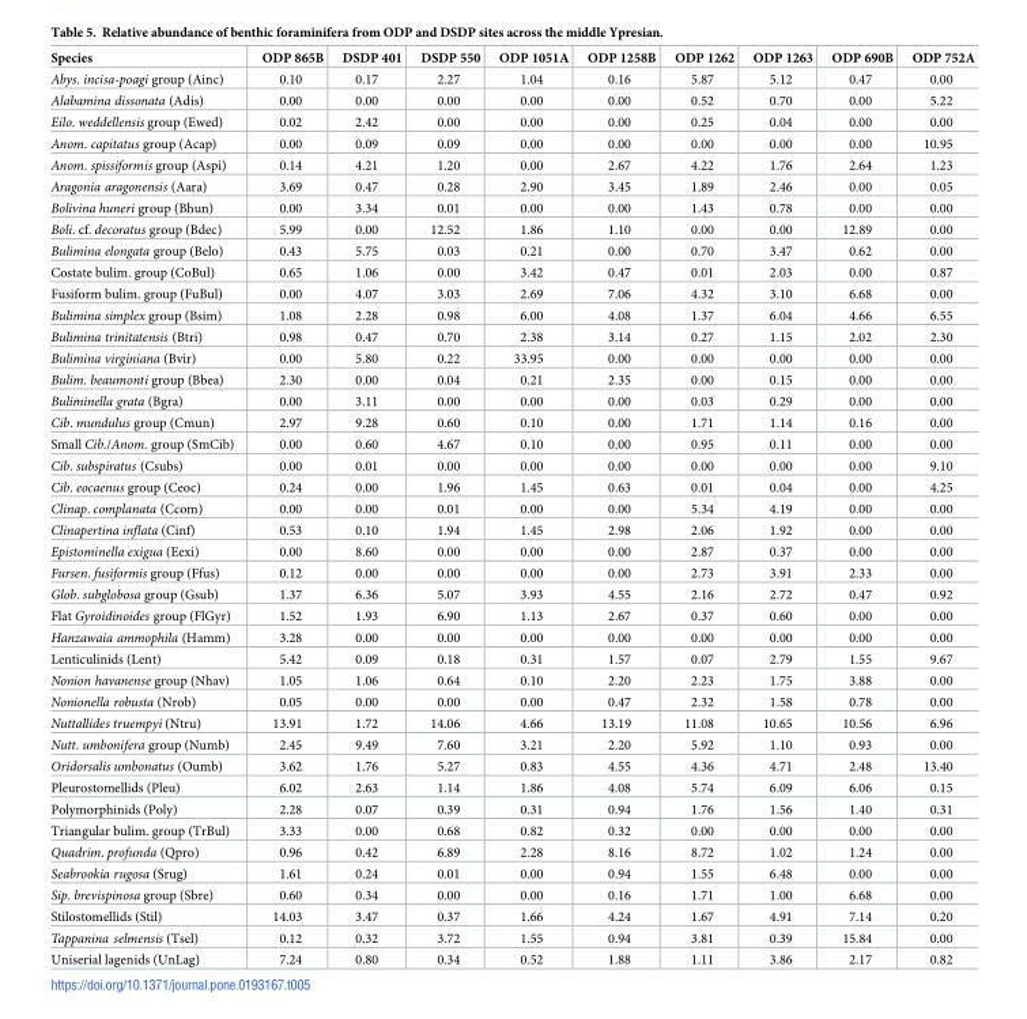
<table><thead><tr><td>Species</td><td>ODP 865B</td><td>DSDP 401</td><td>DSDP 550</td><td>ODP 1051A</td><td>ODP 1258B</td><td>ODP 1262</td><td>ODP 1263</td><td>ODP 690B</td><td>ODP 752A</td></tr></thead><tbody><tr><td>Abys. incisa-poagi group (Ainc)</td><td>0.10</td><td>0.17</td><td>2.27</td><td>1.04</td><td>0.16</td><td>5.87</td><td>5.12</td><td>0.47</td><td>0.00</td></tr><tr><td>Alabamina dissonata (Adis)</td><td>0.00</td><td>0.00</td><td>0.00</td><td>0.00</td><td>0.00</td><td>0.52</td><td>0.70</td><td>0.00</td><td>5.22</td></tr><tr><td>Eilo. weddellensis group (Ewed)</td><td>0.02</td><td>2.42</td><td>0.00</td><td>0.00</td><td>0.00</td><td>0.25</td><td>0.04</td><td>0.00</td><td>0.00</td></tr><tr><td>Anom. capitatus group (Acap)</td><td>0.00</td><td>0.09</td><td>0.09</td><td>0.00</td><td>0.00</td><td>0.00</td><td>0.00</td><td>0.00</td><td>10.95</td></tr><tr><td>Anom. spissiformis group (Aspi)</td><td>0.14</td><td>4.21</td><td>1.20</td><td>0.00</td><td>2.67</td><td>4.22</td><td>1.76</td><td>2.64</td><td>1.23</td></tr><tr><td>Aragonia aragonensis (Aara)</td><td>3.69</td><td>0.47</td><td>0.28</td><td>2.90</td><td>3.45</td><td>1.89</td><td>2.46</td><td>0.00</td><td>0.05</td></tr><tr><td>Bolivina huneri group (Bhun)</td><td>0.00</td><td>3.34</td><td>0.01</td><td>0.00</td><td>0.00</td><td>1.43</td><td>0.78</td><td>0.00</td><td>0.00</td></tr><tr><td>Boli. cf. decoratus group (Bdec)</td><td>5.99</td><td>0.00</td><td>12.52</td><td>1.86</td><td>1.10</td><td>0.00</td><td>0.00</td><td>12.89</td><td>0.00</td></tr><tr><td>Bulimina elongata group (Belo)</td><td>0.43</td><td>5.75</td><td>0.03</td><td>0.21</td><td>0.00</td><td>0.70</td><td>3.47</td><td>0.62</td><td>0.00</td></tr><tr><td>Costate bulim. group (CoBul)</td><td>0.65</td><td>1.06</td><td>0.00</td><td>3.42</td><td>0.47</td><td>0.01</td><td>2.03</td><td>0.00</td><td>0.87</td></tr><tr><td>Fusiform bulim. group (FuBul)</td><td>0.00</td><td>4.07</td><td>3.03</td><td>2.69</td><td>7.06</td><td>4.32</td><td>3.10</td><td>6.68</td><td>0.00</td></tr><tr><td>Bulimina simplex group (Bsim)</td><td>1.08</td><td>2.28</td><td>0.98</td><td>6.00</td><td>4.08</td><td>1.37</td><td>6.04</td><td>4.66</td><td>6.55</td></tr><tr><td>Bulimina trinitatensis (Btri)</td><td>0.98</td><td>0.47</td><td>0.70</td><td>2.38</td><td>3.14</td><td>0.27</td><td>1.15</td><td>2.02</td><td>2.30</td></tr><tr><td>Bulimina virginiana (Bvir)</td><td>0.00</td><td>5.80</td><td>0.22</td><td>33.95</td><td>0.00</td><td>0.00</td><td>0.00</td><td>0.00</td><td>0.00</td></tr><tr><td>Bulim. beaumonti group (Bbea)</td><td>2.30</td><td>0.00</td><td>0.04</td><td>0.21</td><td>2.35</td><td>0.00</td><td>0.15</td><td>0.00</td><td>0.00</td></tr><tr><td>Buliminella grata (Bgra)</td><td>0.00</td><td>3.11</td><td>0.00</td><td>0.00</td><td>0.00</td><td>0.03</td><td>0.29</td><td>0.00</td><td>0.00</td></tr><tr><td>Cib. mundulus group (Cmun)</td><td>2.97</td><td>9.28</td><td>0.60</td><td>0.10</td><td>0.00</td><td>1.71</td><td>1.14</td><td>0.16</td><td>0.00</td></tr><tr><td>Small Cib./Anom. group (SmCib)</td><td>0.00</td><td>0.60</td><td>4.67</td><td>0.10</td><td>0.00</td><td>0.95</td><td>0.11</td><td>0.00</td><td>0.00</td></tr><tr><td>Cib. subspiratus (Csubs)</td><td>0.00</td><td>0.01</td><td>0.00</td><td>0.00</td><td>0.00</td><td>0.00</td><td>0.00</td><td>0.00</td><td>9.10</td></tr><tr><td>Cib. eocaenus group (Ceoc)</td><td>0.24</td><td>0.00</td><td>1.96</td><td>1.45</td><td>0.63</td><td>0.01</td><td>0.04</td><td>0.00</td><td>4.25</td></tr><tr><td>Clinap. complanata (Ccom)</td><td>0.00</td><td>0.00</td><td>0.01</td><td>0.00</td><td>0.00</td><td>5.34</td><td>4.19</td><td>0.00</td><td>0.00</td></tr><tr><td>Clinapertina inflata (Cinf)</td><td>0.53</td><td>0.10</td><td>1.94</td><td>1.45</td><td>2.98</td><td>2.06</td><td>1.92</td><td>0.00</td><td>0.00</td></tr><tr><td>Epistominella exigua (Eexi)</td><td>0.00</td><td>8.60</td><td>0.00</td><td>0.00</td><td>0.00</td><td>2.87</td><td>0.37</td><td>0.00</td><td>0.00</td></tr><tr><td>Fursen. fusiformis group (Ffus)</td><td>0.12</td><td>0.00</td><td>0.00</td><td>0.00</td><td>0.00</td><td>2.73</td><td>3.91</td><td>2.33</td><td>0.00</td></tr><tr><td>Glob. subglobosa group (Gsub)</td><td>1.37</td><td>6.36</td><td>5.07</td><td>3.93</td><td>4.55</td><td>2.16</td><td>2.72</td><td>0.47</td><td>0.92</td></tr><tr><td>Flat Gyroidinoides group (FlGyr)</td><td>1.52</td><td>1.93</td><td>6.90</td><td>1.13</td><td>2.67</td><td>0.37</td><td>0.60</td><td>0.00</td><td>0.00</td></tr><tr><td>Hanzawaia ammophila (Hamm)</td><td>3.28</td><td>0.00</td><td>0.00</td><td>0.00</td><td>0.00</td><td>0.00</td><td>0.00</td><td>0.00</td><td>0.00</td></tr><tr><td>Lenticulinids (Lent)</td><td>5.42</td><td>0.09</td><td>0.18</td><td>0.31</td><td>1.57</td><td>0.07</td><td>2.79</td><td>1.55</td><td>9.67</td></tr><tr><td>Nonion havanense group (Nhav)</td><td>1.05</td><td>1.06</td><td>0.64</td><td>0.10</td><td>2.20</td><td>2.23</td><td>1.75</td><td>3.88</td><td>0.00</td></tr><tr><td>Nonionella robusta (Nrob)</td><td>0.05</td><td>0.00</td><td>0.00</td><td>0.00</td><td>0.47</td><td>2.32</td><td>1.58</td><td>0.78</td><td>0.00</td></tr><tr><td>Nuttallides truempyi (Ntru)</td><td>13.91</td><td>1.72</td><td>14.06</td><td>4.66</td><td>13.19</td><td>11.08</td><td>10.65</td><td>10.56</td><td>6.96</td></tr><tr><td>Nutt. umbonifera group (Numb)</td><td>2.45</td><td>9.49</td><td>7.60</td><td>3.21</td><td>2.20</td><td>5.92</td><td>1.10</td><td>0.93</td><td>0.00</td></tr><tr><td>Oridorsalis umbonatus (Oumb)</td><td>3.62</td><td>1.76</td><td>5.27</td><td>0.83</td><td>4.55</td><td>4.36</td><td>4.71</td><td>2.48</td><td>13.40</td></tr><tr><td>Pleurostomellids (Pleu)</td><td>6.02</td><td>2.63</td><td>1.14</td><td>1.86</td><td>4.08</td><td>5.74</td><td>6.09</td><td>6.06</td><td>0.15</td></tr><tr><td>Polymorphinids (Poly)</td><td>2.28</td><td>0.07</td><td>0.39</td><td>0.31</td><td>0.94</td><td>1.76</td><td>1.56</td><td>1.40</td><td>0.31</td></tr><tr><td>Triangular bulim. group (TrBul)</td><td>3.33</td><td>0.00</td><td>0.68</td><td>0.82</td><td>0.32</td><td>0.00</td><td>0.00</td><td>0.00</td><td>0.00</td></tr><tr><td>Quadrim. profunda (Qpro)</td><td>0.96</td><td>0.42</td><td>6.89</td><td>2.28</td><td>8.16</td><td>8.72</td><td>1.02</td><td>1.24</td><td>0.00</td></tr><tr><td>Seabrookia rugosa (Srug)</td><td>1.61</td><td>0.24</td><td>0.01</td><td>0.00</td><td>0.94</td><td>1.55</td><td>6.48</td><td>0.00</td><td>0.00</td></tr><tr><td>Sip. brevispinosa group (Sbre)</td><td>0.60</td><td>0.34</td><td>0.00</td><td>0.00</td><td>0.16</td><td>1.71</td><td>1.00</td><td>6.68</td><td>0.00</td></tr><tr><td>Stilostomellids (Stil)</td><td>14.03</td><td>3.47</td><td>0.37</td><td>1.66</td><td>4.24</td><td>1.67</td><td>4.91</td><td>7.14</td><td>0.20</td></tr><tr><td>Tappanina selmensis (Tsel)</td><td>0.12</td><td>0.32</td><td>3.72</td><td>1.55</td><td>0.94</td><td>3.81</td><td>0.39</td><td>15.84</td><td>0.00</td></tr><tr><td>Uniserial lagenids (UnLag)</td><td>7.24</td><td>0.80</td><td>0.34</td><td>0.52</td><td>1.88</td><td>1.11</td><td>3.86</td><td>2.17</td><td>0.82</td></tr></tbody></table>